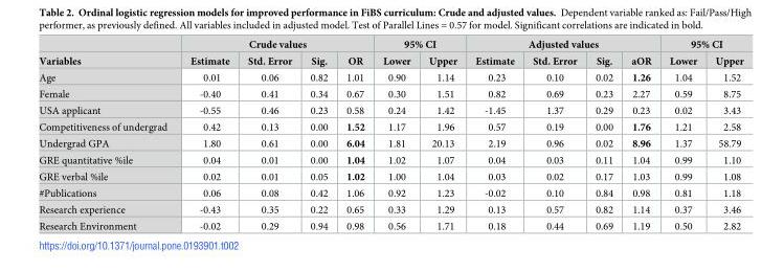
<table><thead><tr><td rowspan="2">Variables</td><td colspan="4">Crude values</td><td colspan="2">95% CI</td><td colspan="4">Adjusted values</td><td colspan="2">95% CI</td></tr><tr><td>Estimate</td><td>Std. Error</td><td>Sig.</td><td>OR</td><td>Lower</td><td>Upper</td><td>Estimate</td><td>Std. Error</td><td>Sig.</td><td>aOR</td><td>Lower</td><td>Upper</td></tr></thead><tbody><tr><td>Age</td><td>0.01</td><td>0.06</td><td>0.82</td><td>1.01</td><td>0.90</td><td>1.14</td><td>0.23</td><td>0.10</td><td>0.02</td><td>1.26</td><td>1.04</td><td>1.52</td></tr><tr><td>Female</td><td>-0.40</td><td>0.41</td><td>0.34</td><td>0.67</td><td>0.30</td><td>1.51</td><td>0.82</td><td>0.69</td><td>0.23</td><td>2.27</td><td>0.59</td><td>8.75</td></tr><tr><td>USA applicant</td><td>-0.55</td><td>0.46</td><td>0.23</td><td>0.58</td><td>0.24</td><td>1.42</td><td>-1.45</td><td>1.37</td><td>0.29</td><td>0.23</td><td>0.02</td><td>3.43</td></tr><tr><td>Competitiveness of undergrad</td><td>0.42</td><td>0.13</td><td>0.00</td><td>1.52</td><td>1.17</td><td>1.96</td><td>0.57</td><td>0.19</td><td>0.00</td><td>1.76</td><td>1.21</td><td>2.58</td></tr><tr><td>Undergrad GPA</td><td>1.80</td><td>0.61</td><td>0.00</td><td>6.04</td><td>1.81</td><td>20.13</td><td>2.19</td><td>0.96</td><td>0.02</td><td>8.96</td><td>1.37</td><td>58.79</td></tr><tr><td>GRE quantitative %ile</td><td>0.04</td><td>0.01</td><td>0.00</td><td>1.04</td><td>1.02</td><td>1.07</td><td>0.04</td><td>0.03</td><td>0.11</td><td>1.04</td><td>0.99</td><td>1.10</td></tr><tr><td>GRE verbal %ile</td><td>0.02</td><td>0.01</td><td>0.05</td><td>1.02</td><td>1.00</td><td>1.04</td><td>0.03</td><td>0.02</td><td>0.17</td><td>1.03</td><td>0.99</td><td>1.08</td></tr><tr><td>#Publications</td><td>0.06</td><td>0.08</td><td>0.42</td><td>1.06</td><td>0.92</td><td>1.23</td><td>-0.02</td><td>0.10</td><td>0.84</td><td>0.98</td><td>0.81</td><td>1.18</td></tr><tr><td>Research experience</td><td>-0.43</td><td>0.35</td><td>0.22</td><td>0.65</td><td>0.33</td><td>1.29</td><td>0.13</td><td>0.57</td><td>0.82</td><td>1.14</td><td>0.37</td><td>3.46</td></tr><tr><td>Research Environment</td><td>-0.02</td><td>0.29</td><td>0.94</td><td>0.98</td><td>0.56</td><td>1.71</td><td>0.18</td><td>0.44</td><td>0.69</td><td>1.19</td><td>0.50</td><td>2.82</td></tr></tbody></table>